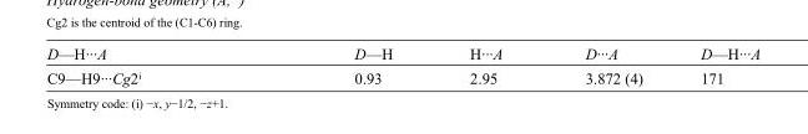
<table><tbody><tr><td>D—H···A</td><td>D—H</td><td>H···A</td><td>D···A</td><td>D—H···A</td></tr><tr><td>C9—H9···Cg2<sup>i</sup></td><td>0.93</td><td>2.95</td><td>3.872 (4)</td><td>171</td></tr></tbody></table>